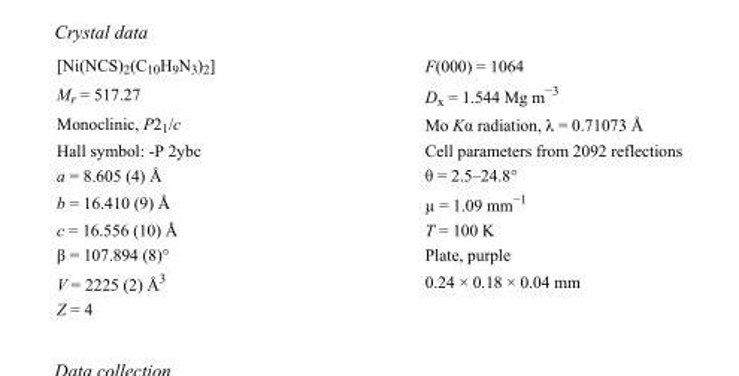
<table><tbody><tr><td>[Ni(NCS)<sub>2</sub>(C<sub>10</sub>H<sub>9</sub>N<sub>3</sub>)<sub>2</sub>]</td><td>F(000) = 1064</td></tr><tr><td>M<sub>r</sub> = 517.27</td><td>D<sub>x</sub> = 1.544 Mg m<sup>−3</sup></td></tr><tr><td>Monoclinic, P2<sub>1</sub>/c</td><td>Mo Kα radiation, λ = 0.71073 Å</td></tr><tr><td>Hall symbol: -P 2ybc</td><td>Cell parameters from 2092 reflections</td></tr><tr><td>a = 8.605 (4) Å</td><td>θ = 2.5–24.8°</td></tr><tr><td>b = 16.410 (9) Å</td><td>µ = 1.09 mm<sup>−1</sup></td></tr><tr><td>c = 16.556 (10) Å</td><td>T = 100 K</td></tr><tr><td>β = 107.894 (8)°</td><td>Plate, purple</td></tr><tr><td>V = 2225 (2) Å<sup>3</sup></td><td>0.24 × 0.18 × 0.04 mm</td></tr><tr><td>Z = 4</td><td></td></tr></tbody></table>